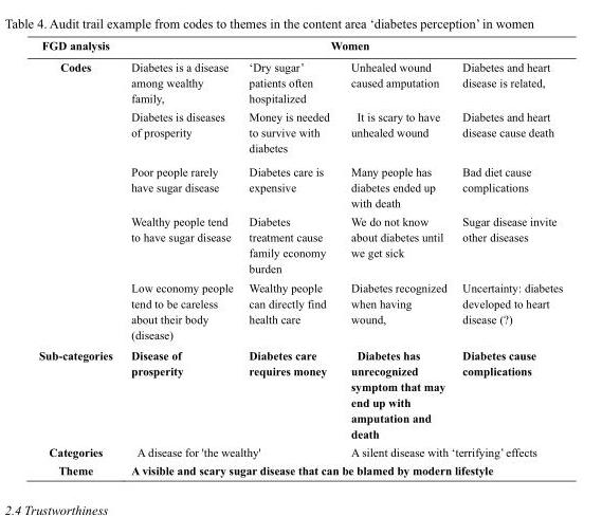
<table><thead><tr><td rowspan="2">FGD analysis Codes</td><td colspan="4">Women</td></tr><tr><td>Diabetes is a disease among wealthy family,</td><td>‘Dry sugar’ patients often hospitalized</td><td>Unhealed wound caused amputation</td><td>Diabetes and heart disease is related,</td></tr></thead><tbody><tr><td></td><td>Diabetes is diseases of prosperity</td><td>Money is needed to survive with diabetes</td><td>It is scary to have unhealed wound</td><td>Diabetes and heart disease cause death</td></tr><tr><td></td><td>Poor people rarely have sugar disease</td><td>Diabetes care is expensive</td><td>Many people has diabetes ended up with death</td><td>Bad diet cause complications</td></tr><tr><td></td><td>Wealthy people tend to have sugar disease</td><td>Diabetes treatment cause family economy burden</td><td>We do not know about diabetes until we get sick</td><td>Sugar disease invite other diseases</td></tr><tr><td></td><td>Low economy people tend to be careless about their body (disease)</td><td>Wealthy people can directly find health care</td><td>Diabetes recognized when having wound,</td><td>Uncertainty: diabetes developed to heart disease (?)</td></tr><tr><td>Sub-categories</td><td>Disease of prosperity</td><td>Diabetes care requires money</td><td>Diabetes has unrecognized symptom that may end up with amputation and death</td><td>Diabetes cause complications</td></tr><tr><td>Categories</td><td colspan="2">A disease for &#x27;the wealthy&#x27;</td><td colspan="2">A silent disease with ‘terrifying’ effects</td></tr><tr><td>Theme</td><td colspan="4">A visible and scary sugar disease that can be blamed by modern lifestyle</td></tr></tbody></table>